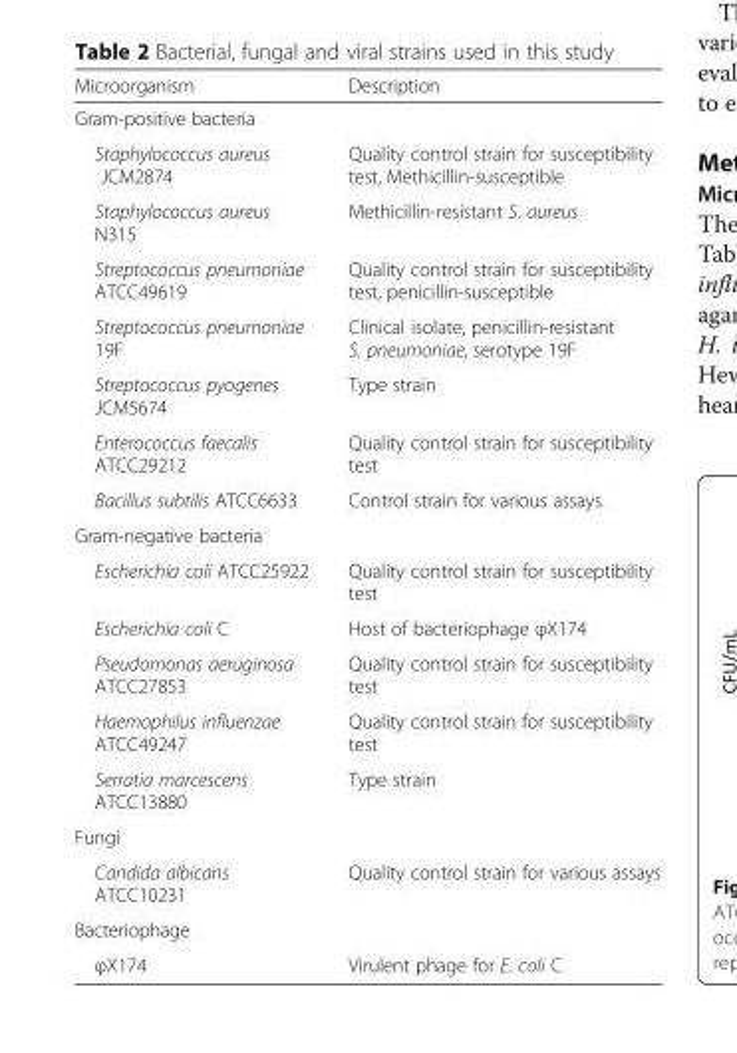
<table><thead><tr><td>Microorganism</td><td>Description</td></tr></thead><tbody><tr><td colspan="2">Gram-positive bacteria</td></tr><tr><td>Staphylococcus aureus JCM2874</td><td>Quality control strain for susceptibility test, Methicillin-susceptible</td></tr><tr><td>Staphylococcus aureus N315</td><td>Methicillin-resistant S. aureus</td></tr><tr><td>Streptococcus pneumoniae ATCC49619</td><td>Quality control strain for susceptibility test, penicillin-susceptible</td></tr><tr><td>Streptococcus pneumoniae 19F</td><td>Clinical isolate, penicillin-resistant S. pneumoniae, serotype 19F</td></tr><tr><td>Streptococcus pyogenes JCM5674</td><td>Type strain</td></tr><tr><td>Enterococcus faecalis ATCC29212</td><td>Quality control strain for susceptibility test</td></tr><tr><td>Bacillus subtilis ATCC6633</td><td>Control strain for various assays</td></tr><tr><td colspan="2">Gram-negative bacteria</td></tr><tr><td>Escherichia coli ATCC25922</td><td>Quality control strain for susceptibility test</td></tr><tr><td>Escherichia coli C</td><td>Host of bacteriophage φX174</td></tr><tr><td>Pseudomonas aeruginosa ATCC27853</td><td>Quality control strain for susceptibility test</td></tr><tr><td>Haemophilus influenzae ATCC49247</td><td>Quality control strain for susceptibility test</td></tr><tr><td>Serratia marcescens ATCC13880</td><td>Type strain</td></tr><tr><td colspan="2">Fungi</td></tr><tr><td>Candida albicans ATCC10231</td><td>Quality control strain for various assays</td></tr><tr><td colspan="2">Bacteriophage</td></tr><tr><td>φX174</td><td>Virulent phage for E. coli C</td></tr></tbody></table>